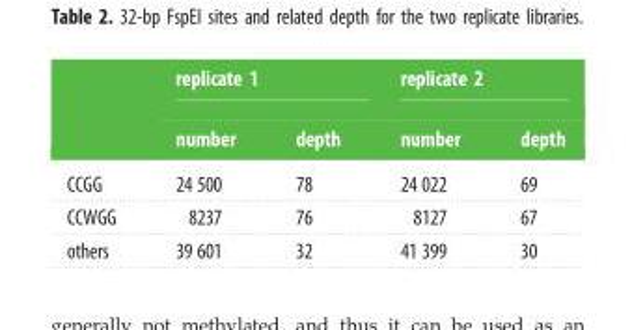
<table><thead><tr><td rowspan="2"></td><td colspan="2">replicate 1</td><td colspan="2">replicate 2</td></tr><tr><td>number</td><td>depth</td><td>number</td><td>depth</td></tr></thead><tbody><tr><td>CCGG</td><td>24 500</td><td>78</td><td>24 022</td><td>69</td></tr><tr><td>CCWGG</td><td>8237</td><td>76</td><td>8127</td><td>67</td></tr><tr><td>others</td><td>39 601</td><td>32</td><td>41 399</td><td>30</td></tr></tbody></table>